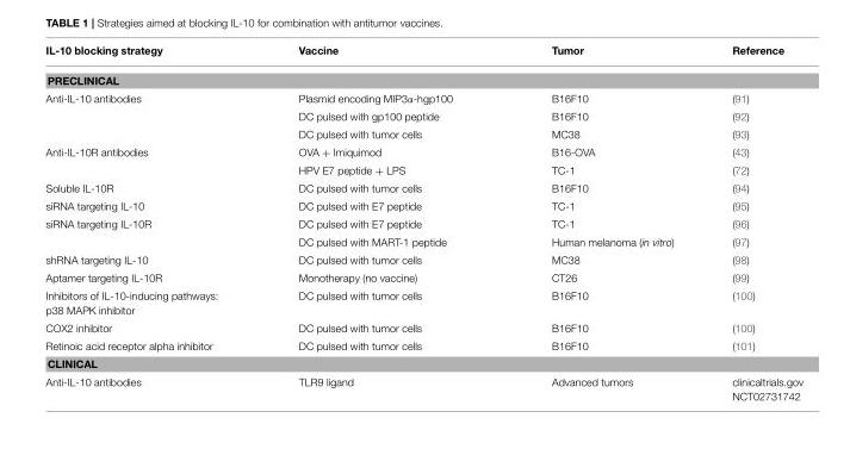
<table><thead><tr><td>IL-10 blocking strategy</td><td>Vaccine</td><td>Tumor</td><td>Reference</td></tr></thead><tbody><tr><td colspan="4">PRECLINICAL</td></tr><tr><td rowspan="3">Anti-IL-10 antibodies</td><td>Plasmid encoding MIP3α-hgp100</td><td>B16F10</td><td>(91)</td></tr><tr><td>DC pulsed with gp100 peptide</td><td>B16F10</td><td>(92)</td></tr><tr><td>DC pulsed with tumor cells</td><td>MC38</td><td>(93)</td></tr><tr><td rowspan="2">Anti-IL-10R antibodies</td><td>OVA + Imiquimod</td><td>B16-OVA</td><td>(43)</td></tr><tr><td>HPV E7 peptide + LPS</td><td>TC-1</td><td>(72)</td></tr><tr><td>Soluble IL-10R</td><td>DC pulsed with tumor cells</td><td>B16F10</td><td>(94)</td></tr><tr><td>siRNA targeting IL-10</td><td>DC pulsed with E7 peptide</td><td>TC-1</td><td>(95)</td></tr><tr><td rowspan="2">siRNA targeting IL-10R</td><td>DC pulsed with E7 peptide</td><td>TC-1</td><td>(96)</td></tr><tr><td>DC pulsed with MART-1 peptide</td><td>Human melanoma (in vitro)</td><td>(97)</td></tr><tr><td>shRNA targeting IL-10</td><td>DC pulsed with tumor cells</td><td>MC38</td><td>(98)</td></tr><tr><td>Aptamer targeting IL-10R</td><td>Monotherapy (no vaccine)</td><td>CT26</td><td>(99)</td></tr><tr><td>Inhibitors of IL-10-inducing pathways: p38 MAPK inhibitor</td><td>DC pulsed with tumor cells</td><td>B16F10</td><td>(100)</td></tr><tr><td>COX2 inhibitor</td><td>DC pulsed with tumor cells</td><td>B16F10</td><td>(100)</td></tr><tr><td>Retinoic acid receptor alpha inhibitor</td><td>DC pulsed with tumor cells</td><td>B16F10</td><td>(101)</td></tr><tr><td colspan="4">CLINICAL</td></tr><tr><td>Anti-IL-10 antibodies</td><td>TLR9 ligand</td><td>Advanced tumors</td><td>clinicaltrials.gov NCT02731742</td></tr></tbody></table>